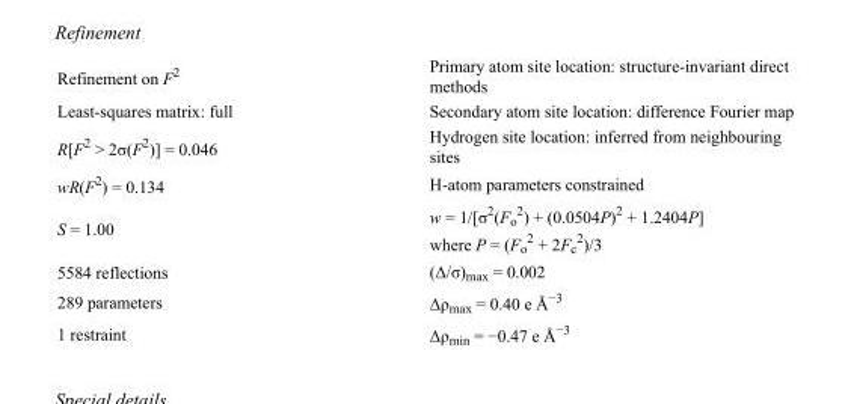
<table><tbody><tr><td>Refinement on F<sup>2</sup></td><td>Primary atom site location: structure-invariant direct methods</td></tr><tr><td>Least-squares matrix: full</td><td>Secondary atom site location: difference Fourier map</td></tr><tr><td>R[F<sup>2</sup> &gt; 2σ(F<sup>2</sup>)] = 0.046</td><td>Hydrogen site location: inferred from neighbouring sites</td></tr><tr><td>wR(F<sup>2</sup>) = 0.134</td><td>H-atom parameters constrained</td></tr><tr><td>S = 1.00</td><td>w = 1/[σ<sup>2</sup>(F<sub>o</sub> <sup>2</sup>) + (0.0504P)<sup>2</sup> + 1.2404P] where P = (F<sub>o</sub> <sup>2</sup> + 2F<sub>c</sub> <sup>2</sup>)/3</td></tr><tr><td>5584 reflections</td><td>(Δ/σ)<sub>max</sub> = 0.002</td></tr><tr><td>289 parameters</td><td>Δρ<sub>max</sub> = 0.40 e Å<sup>−3</sup></td></tr><tr><td>1 restraint</td><td>Δρ<sub>min</sub> = −0.47 e Å<sup>−3</sup></td></tr></tbody></table>